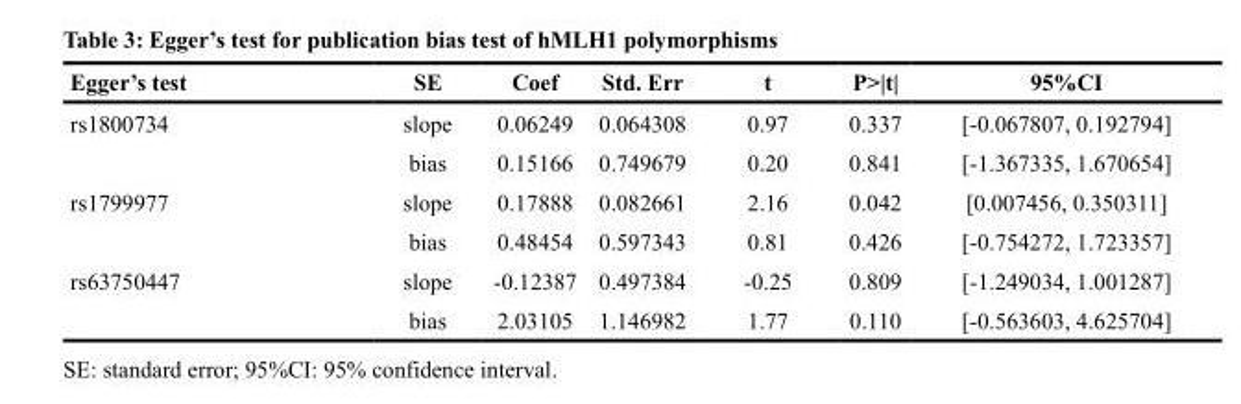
<table><thead><tr><td>Egger’s test</td><td>SE</td><td>Coef</td><td>Std. Err</td><td>t</td><td>P&gt;|t|</td><td>95%CI</td></tr></thead><tbody><tr><td rowspan="2">rs1800734</td><td>slope</td><td>0.06249</td><td>0.064308</td><td>0.97</td><td>0.337</td><td>[-0.067807, 0.192794]</td></tr><tr><td>bias</td><td>0.15166</td><td>0.749679</td><td>0.20</td><td>0.841</td><td>[-1.367335, 1.670654]</td></tr><tr><td rowspan="2">rs1799977</td><td>slope</td><td>0.17888</td><td>0.082661</td><td>2.16</td><td>0.042</td><td>[0.007456, 0.350311]</td></tr><tr><td>bias</td><td>0.48454</td><td>0.597343</td><td>0.81</td><td>0.426</td><td>[-0.754272, 1.723357]</td></tr><tr><td rowspan="2">rs63750447</td><td>slope</td><td>-0.12387</td><td>0.497384</td><td>-0.25</td><td>0.809</td><td>[-1.249034, 1.001287]</td></tr><tr><td>bias</td><td>2.03105</td><td>1.146982</td><td>1.77</td><td>0.110</td><td>[-0.563603, 4.625704]</td></tr></tbody></table>